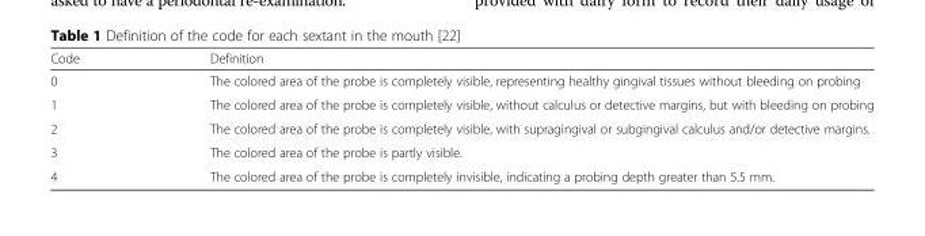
<table><thead><tr><td>Code</td><td>Definition</td></tr></thead><tbody><tr><td>0</td><td>The colored area of the probe is completely visible, representing healthy gingival tissues without bleeding on probing</td></tr><tr><td>1</td><td>The colored area of the probe is completely visible, without calculus or detective margins, but with bleeding on probing</td></tr><tr><td>2</td><td>The colored area of the probe is completely visible, with supragingival or subgingival calculus and/or detective margins.</td></tr><tr><td>3</td><td>The colored area of the probe is partly visible.</td></tr><tr><td>4</td><td>The colored area of the probe is completely invisible, indicating a probing depth greater than 5.5 mm.</td></tr></tbody></table>